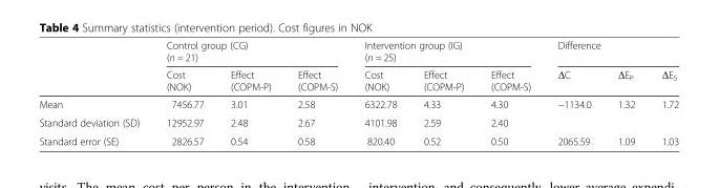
<table><thead><tr><td rowspan="2"></td><td colspan="3">Control group (CG) (n = 21)</td><td colspan="3">Intervention group (IG) (n = 25)</td><td colspan="3">Difference</td></tr><tr><td>Cost (NOK)</td><td>Effect (COPM-P)</td><td>Effect (COPM-S)</td><td>Cost (NOK)</td><td>Effect (COPM-P)</td><td>Effect (COPM-S)</td><td>ΔC</td><td>ΔE<sub>P</sub></td><td>ΔE<sub>S</sub></td></tr></thead><tbody><tr><td>Mean</td><td>7456.77</td><td>3.01</td><td>2.58</td><td>6322.78</td><td>4.33</td><td>4.30</td><td>−1134.0</td><td>1.32</td><td>1.72</td></tr><tr><td>Standard deviation (SD)</td><td>12952.97</td><td>2.48</td><td>2.67</td><td>4101.98</td><td>2.59</td><td>2.40</td><td colspan="3"></td></tr><tr><td>Standard error (SE)</td><td>2826.57</td><td>0.54</td><td>0.58</td><td>820.40</td><td>0.52</td><td>0.50</td><td>2065.59</td><td>1.09</td><td>1.03</td></tr></tbody></table>